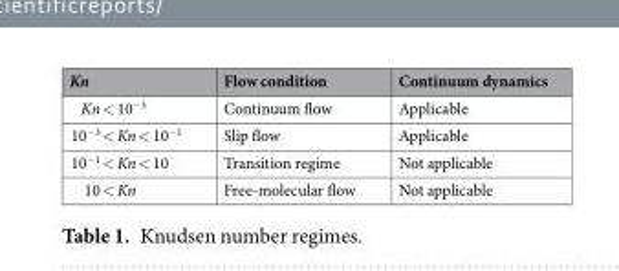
<table><thead><tr><td>Kn</td><td>Flow condition</td><td>Continuum dynamics</td></tr></thead><tbody><tr><td>Kn &lt; 10<sup>−3</sup></td><td>Continuum flow</td><td>Applicable</td></tr><tr><td>10<sup>−3</sup> &lt; Kn &lt; 10<sup>−1</sup></td><td>Slip flow</td><td>Applicable</td></tr><tr><td>10<sup>−1</sup> &lt; Kn &lt; 10</td><td>Transition regime</td><td>Not applicable</td></tr><tr><td>10 &lt; Kn</td><td>Free-molecular flow</td><td>Not applicable</td></tr></tbody></table>